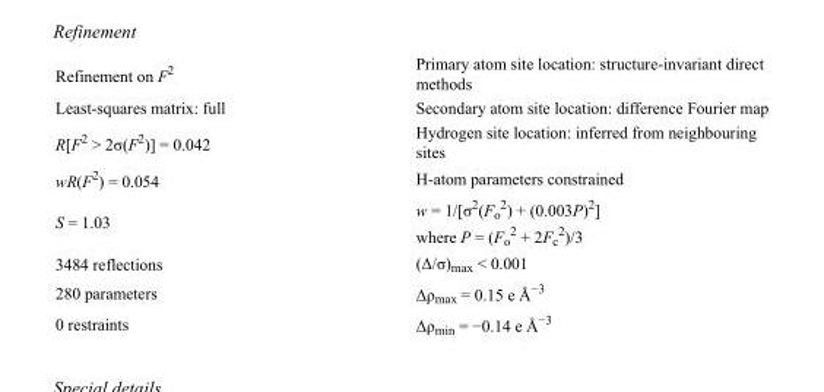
<table><tbody><tr><td>Refinement on F<sup>2</sup></td><td>Primary atom site location: structure-invariant direct methods</td></tr><tr><td>Least-squares matrix: full</td><td>Secondary atom site location: difference Fourier map</td></tr><tr><td>R[F<sup>2</sup> &gt; 2σ(F<sup>2</sup>)] = 0.042</td><td>Hydrogen site location: inferred from neighbouring sites</td></tr><tr><td>wR(F<sup>2</sup>) = 0.054</td><td>H-atom parameters constrained</td></tr><tr><td>S = 1.03</td><td>w = 1/[σ<sup>2</sup>(F<sub>o</sub> <sup>2</sup>) + (0.003P)<sup>2</sup>] where P = (F<sub>o</sub> <sup>2</sup> + 2F<sub>c</sub> <sup>2</sup>)/3</td></tr><tr><td>3484 reflections</td><td>(Δ/σ)<sub>max</sub> &lt; 0.001</td></tr><tr><td>280 parameters</td><td>Δρ<sub>max</sub> = 0.15 e Å<sup>−3</sup></td></tr><tr><td>0 restraints</td><td>Δρ<sub>min</sub> = −0.14 e Å<sup>−3</sup></td></tr></tbody></table>